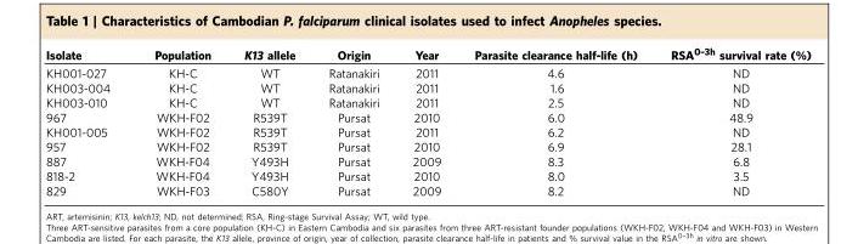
<table><thead><tr><td>Isolate</td><td>Population</td><td>K13 allele</td><td>Origin</td><td>Year</td><td>Parasite clearance half-life (h)</td><td>RSA<sup>0–3h</sup> survival rate (%)</td></tr></thead><tbody><tr><td>KH001-027</td><td>KH-C</td><td>WT</td><td>Ratanakiri</td><td>2011</td><td>4.6</td><td>ND</td></tr><tr><td>KH003-004</td><td>KH-C</td><td>WT</td><td>Ratanakiri</td><td>2011</td><td>1.6</td><td>ND</td></tr><tr><td>KH003-010</td><td>KH-C</td><td>WT</td><td>Ratanakiri</td><td>2011</td><td>2.5</td><td>ND</td></tr><tr><td>967</td><td>WKH-F02</td><td>R539T</td><td>Pursat</td><td>2010</td><td>6.0</td><td>48.9</td></tr><tr><td>KH001-005</td><td>WKH-F02</td><td>R539T</td><td>Pursat</td><td>2011</td><td>6.2</td><td>ND</td></tr><tr><td>957</td><td>WKH-F02</td><td>R539T</td><td>Pursat</td><td>2010</td><td>6.9</td><td>28.1</td></tr><tr><td>887</td><td>WKH-F04</td><td>Y493H</td><td>Pursat</td><td>2009</td><td>8.3</td><td>6.8</td></tr><tr><td>818-2</td><td>WKH-F04</td><td>Y493H</td><td>Pursat</td><td>2010</td><td>8.0</td><td>3.5</td></tr><tr><td>829</td><td>WKH-F03</td><td>C580Y</td><td>Pursat</td><td>2009</td><td>8.2</td><td>ND</td></tr></tbody></table>